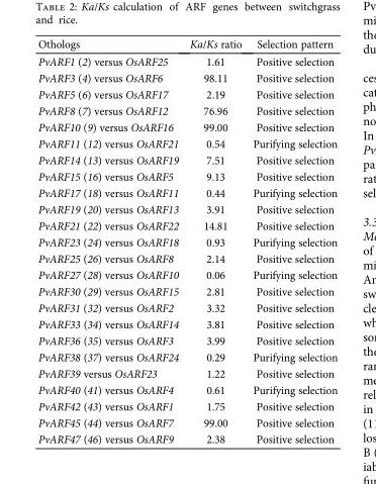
<table><thead><tr><td>Othologs</td><td>Ka/Ks ratio</td><td>Selection pattern</td></tr></thead><tbody><tr><td>PvARF1 (2) versus OsARF25</td><td>1.61</td><td>Positive selection</td></tr><tr><td>PvARF3 (4) versus OsARF6</td><td>98.11</td><td>Positive selection</td></tr><tr><td>PvARF5 (6) versus OsARF17</td><td>2.19</td><td>Positive selection</td></tr><tr><td>PvARF8 (7) versus OsARF12</td><td>76.96</td><td>Positive selection</td></tr><tr><td>PvARF10 (9) versus OsARF16</td><td>99.00</td><td>Positive selection</td></tr><tr><td>PvARF11 (12) versus OsARF21</td><td>0.54</td><td>Purifying selection</td></tr><tr><td>PvARF14 (13) versus OsARF19</td><td>7.51</td><td>Positive selection</td></tr><tr><td>PvARF15 (16) versus OsARF5</td><td>9.13</td><td>Positive selection</td></tr><tr><td>PvARF17 (18) versus OsARF11</td><td>0.44</td><td>Purifying selection</td></tr><tr><td>PvARF19 (20) versus OsARF13</td><td>3.91</td><td>Positive selection</td></tr><tr><td>PvARF21 (22) versus OsARF22</td><td>14.81</td><td>Positive selection</td></tr><tr><td>PvARF23 (24) versus OsARF18</td><td>0.93</td><td>Purifying selection</td></tr><tr><td>PvARF25 (26) versus OsARF8</td><td>2.14</td><td>Positive selection</td></tr><tr><td>PvARF27 (28) versus OsARF10</td><td>0.06</td><td>Purifying selection</td></tr><tr><td>PvARF30 (29) versus OsARF15</td><td>2.81</td><td>Positive selection</td></tr><tr><td>PvARF31 (32) versus OsARF2</td><td>3.32</td><td>Positive selection</td></tr><tr><td>PvARF33 (34) versus OsARF14</td><td>3.81</td><td>Positive selection</td></tr><tr><td>PvARF36 (35) versus OsARF3</td><td>3.99</td><td>Positive selection</td></tr><tr><td>PvARF38 (37) versus OsARF24</td><td>0.29</td><td>Purifying selection</td></tr><tr><td>PvARF39 versus OsARF23</td><td>1.22</td><td>Positive selection</td></tr><tr><td>PvARF40 (41) versus OsARF4</td><td>0.61</td><td>Purifying selection</td></tr><tr><td>PvARF42 (43) versus OsARF1</td><td>1.75</td><td>Positive selection</td></tr><tr><td>PvARF45 (44) versus OsARF7</td><td>99.00</td><td>Positive selection</td></tr><tr><td>PvARF47 (46) versus OsARF9</td><td>2.38</td><td>Positive selection</td></tr></tbody></table>